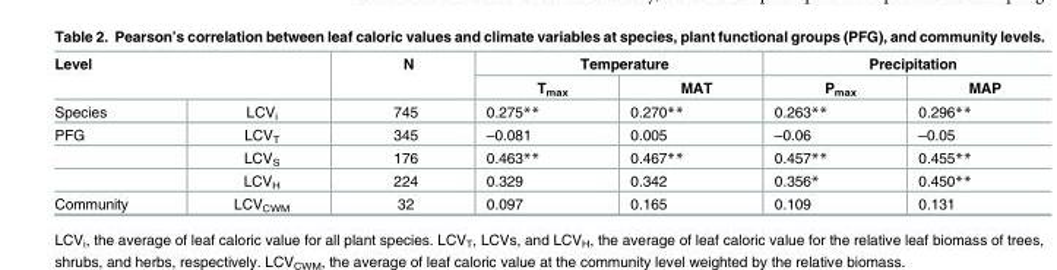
<table><thead><tr><td rowspan="2" colspan="2">Level</td><td rowspan="3">N 745</td><td colspan="2">Temperature</td><td colspan="2">Precipitation</td></tr><tr><td rowspan="2">T<sub>max</sub> 0.275**</td><td rowspan="2">MAT 0.270**</td><td rowspan="2">P<sub>max</sub> 0.263**</td><td rowspan="2">MAP 0.296**</td></tr><tr><td>Species</td><td>LCV<sub>i</sub></td></tr></thead><tbody><tr><td rowspan="3">PFG</td><td>LCV<sub>T</sub></td><td>345</td><td>–0.081</td><td>0.005</td><td>–0.06</td><td>–0.05</td></tr><tr><td>LCV<sub>S</sub></td><td>176</td><td>0.463**</td><td>0.467**</td><td>0.457**</td><td>0.455**</td></tr><tr><td>LCV<sub>H</sub></td><td>224</td><td>0.329</td><td>0.342</td><td>0.356*</td><td>0.450**</td></tr><tr><td>Community</td><td>LCV<sub>CWM</sub></td><td>32</td><td>0.097</td><td>0.165</td><td>0.109</td><td>0.131</td></tr></tbody></table>